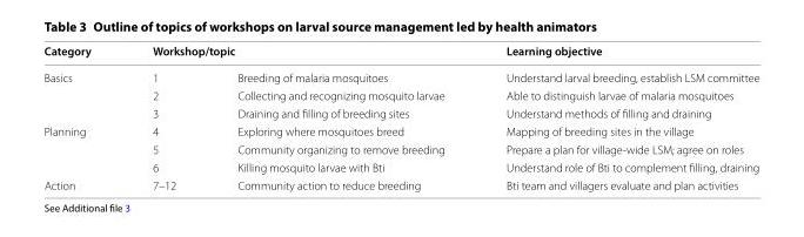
<table><thead><tr><td rowspan="2">Category Basics</td><td colspan="2">Workshop/topic</td><td rowspan="2">Learning objective Understand larval breeding, establish LSM committee</td></tr><tr><td>1</td><td>Breeding of malaria mosquitoes</td></tr></thead><tbody><tr><td></td><td>2</td><td>Collecting and recognizing mosquito larvae</td><td>Able to distinguish larvae of malaria mosquitoes</td></tr><tr><td></td><td>3</td><td>Draining and filling of breeding sites</td><td>Understand methods of filling and draining</td></tr><tr><td rowspan="3">Planning</td><td>4</td><td>Exploring where mosquitoes breed</td><td>Mapping of breeding sites in the village</td></tr><tr><td>5</td><td>Community organizing to remove breeding</td><td>Prepare a plan for village-wide LSM; agree on roles</td></tr><tr><td>6</td><td>Killing mosquito larvae with Bti</td><td>Understand role of Bti to complement filling, draining</td></tr><tr><td>Action</td><td>7–12</td><td>Community action to reduce breeding</td><td>Bti team and villagers evaluate and plan activities</td></tr></tbody></table>